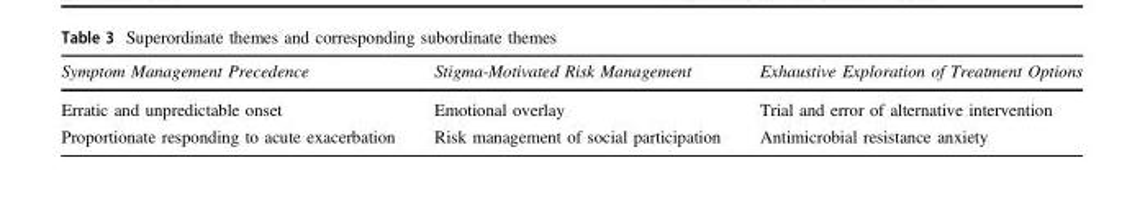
<table><thead><tr><td>Symptom Management Precedence</td><td>Stigma-Motivated Risk Management</td><td>Exhaustive Exploration of Treatment Options</td></tr></thead><tbody><tr><td>Erratic and unpredictable onset</td><td>Emotional overlay</td><td>Trial and error of alternative intervention</td></tr><tr><td>Proportionate responding to acute exacerbation</td><td>Risk management of social participation</td><td>Antimicrobial resistance anxiety</td></tr></tbody></table>